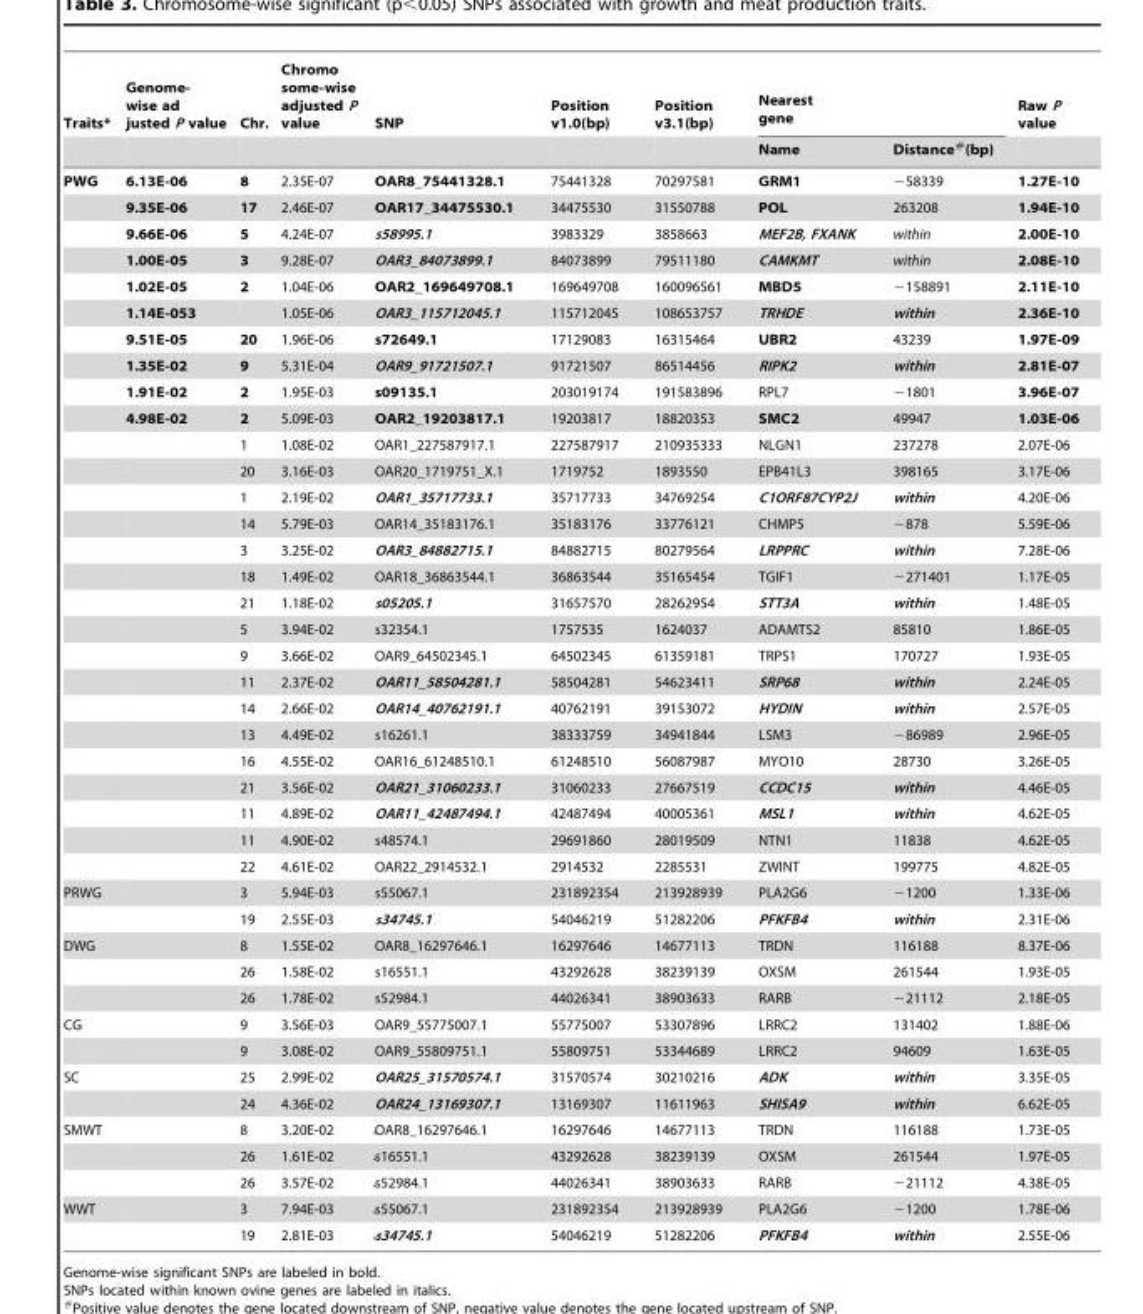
<table><thead><tr><td rowspan="2">Traits*</td><td rowspan="2">Genome- wise ad justed P value</td><td rowspan="2">Chr.</td><td rowspan="2">Chromo some-wise adjusted P value</td><td rowspan="2">SNP</td><td rowspan="2">Position v1.0(bp)</td><td rowspan="2">Position v3.1(bp)</td><td colspan="2">Nearest gene</td><td rowspan="2">Raw P value</td></tr><tr><td>Name</td><td>Distance#(bp)</td></tr></thead><tbody><tr><td rowspan="27">PWG</td><td>6.13E-06</td><td>8</td><td>2.35E-07</td><td>OAR8_75441328.1</td><td>75441328</td><td>70297581</td><td>GRM1</td><td>−58339</td><td>1.27E-10</td></tr><tr><td>9.35E-06</td><td>17</td><td>2.46E-07</td><td>OAR17_34475530.1</td><td>34475530</td><td>31550788</td><td>POL</td><td>263208</td><td>1.94E-10</td></tr><tr><td>9.66E-06</td><td>5</td><td>4.24E-07</td><td>s58995.1</td><td>3983329</td><td>3858663</td><td>MEF2B, FXANK</td><td>within</td><td>2.00E-10</td></tr><tr><td>1.00E-05</td><td>3</td><td>9.28E-07</td><td>OAR3_84073899.1</td><td>84073899</td><td>79511180</td><td>CAMKMT</td><td>within</td><td>2.08E-10</td></tr><tr><td>1.02E-05</td><td>2</td><td>1.04E-06</td><td>OAR2_169649708.1</td><td>169649708</td><td>160096561</td><td>MBD5</td><td>−158891</td><td>2.11E-10</td></tr><tr><td>1.14E-053</td><td></td><td>1.05E-06</td><td>OAR3_115712045.1</td><td>115712045</td><td>108653757</td><td>TRHDE</td><td>within</td><td>2.36E-10</td></tr><tr><td>9.51E-05</td><td>20</td><td>1.96E-06</td><td>s72649.1</td><td>17129083</td><td>16315464</td><td>UBR2</td><td>43239</td><td>1.97E-09</td></tr><tr><td>1.35E-02</td><td>9</td><td>5.31E-04</td><td>OAR9_91721507.1</td><td>91721507</td><td>86514456</td><td>RIPK2</td><td>within</td><td>2.81E-07</td></tr><tr><td>1.91E-02</td><td>2</td><td>1.95E-03</td><td>s09135.1</td><td>203019174</td><td>191583896</td><td>RPL7</td><td>−1801</td><td>3.96E-07</td></tr><tr><td>4.98E-02</td><td>2</td><td>5.09E-03</td><td>OAR2_19203817.1</td><td>19203817</td><td>18820353</td><td>SMC2</td><td>49947</td><td>1.03E-06</td></tr><tr><td></td><td>1</td><td>1.08E-02</td><td>OAR1_227587917.1</td><td>227587917</td><td>210935333</td><td>NLGN1</td><td>237278</td><td>2.07E-06</td></tr><tr><td></td><td>20</td><td>3.16E-03</td><td>OAR20_1719751_X.1</td><td>1719752</td><td>1893550</td><td>EPB41L3</td><td>398165</td><td>3.17E-06</td></tr><tr><td></td><td>1</td><td>2.19E-02</td><td>OAR1_35717733.1</td><td>35717733</td><td>34769254</td><td>C1ORF87CYP2J</td><td>within</td><td>4.20E-06</td></tr><tr><td></td><td>14</td><td>5.79E-03</td><td>OAR14_35183176.1</td><td>35183176</td><td>33776121</td><td>CHMP5</td><td>−878</td><td>5.59E-06</td></tr><tr><td></td><td>3</td><td>3.25E-02</td><td>OAR3_84882715.1</td><td>84882715</td><td>80279564</td><td>LRPPRC</td><td>within</td><td>7.28E-06</td></tr><tr><td></td><td>18</td><td>1.49E-02</td><td>OAR18_36863544.1</td><td>36863544</td><td>35165454</td><td>TGIF1</td><td>−271401</td><td>1.17E-05</td></tr><tr><td></td><td>21</td><td>1.18E-02</td><td>s05205.1</td><td>31657570</td><td>28262954</td><td>STT3A</td><td>within</td><td>1.48E-05</td></tr><tr><td></td><td>5</td><td>3.94E-02</td><td>s32354.1</td><td>1757535</td><td>1624037</td><td>ADAMTS2</td><td>85810</td><td>1.86E-05</td></tr><tr><td></td><td>9</td><td>3.66E-02</td><td>OAR9_64502345.1</td><td>64502345</td><td>61359181</td><td>TRPS1</td><td>170727</td><td>1.93E-05</td></tr><tr><td></td><td>11</td><td>2.37E-02</td><td>OAR11_58504281.1</td><td>58504281</td><td>54623411</td><td>SRP68</td><td>within</td><td>2.24E-05</td></tr><tr><td></td><td>14</td><td>2.66E-02</td><td>OAR14_40762191.1</td><td>40762191</td><td>39153072</td><td>HYDIN</td><td>within</td><td>2.57E-05</td></tr><tr><td></td><td>13</td><td>4.49E-02</td><td>s16261.1</td><td>38333759</td><td>34941844</td><td>LSM3</td><td>−86989</td><td>2.96E-05</td></tr><tr><td></td><td>16</td><td>4.55E-02</td><td>OAR16_61248510.1</td><td>61248510</td><td>56087987</td><td>MYO10</td><td>28730</td><td>3.26E-05</td></tr><tr><td></td><td>21</td><td>3.56E-02</td><td>OAR21_31060233.1</td><td>31060233</td><td>27667519</td><td>CCDC15</td><td>within</td><td>4.46E-05</td></tr><tr><td></td><td>11</td><td>4.89E-02</td><td>OAR11_42487494.1</td><td>42487494</td><td>40005361</td><td>MSL1</td><td>within</td><td>4.62E-05</td></tr><tr><td></td><td>11</td><td>4.90E-02</td><td>s48574.1</td><td>29691860</td><td>28019509</td><td>NTN1</td><td>11838</td><td>4.62E-05</td></tr><tr><td></td><td>22</td><td>4.61E-02</td><td>OAR22_2914532.1</td><td>2914532</td><td>2285531</td><td>ZWINT</td><td>199775</td><td>4.82E-05</td></tr><tr><td rowspan="2">PRWG</td><td></td><td>3</td><td>5.94E-03</td><td>s55067.1</td><td>231892354</td><td>213928939</td><td>PLA2G6</td><td>−1200</td><td>1.33E-06</td></tr><tr><td></td><td>19</td><td>2.55E-03</td><td>s34745.1</td><td>54046219</td><td>51282206</td><td>PFKFB4</td><td>within</td><td>2.31E-06</td></tr><tr><td rowspan="3">DWG</td><td></td><td>8</td><td>1.55E-02</td><td>OAR8_16297646.1</td><td>16297646</td><td>14677113</td><td>TRDN</td><td>116188</td><td>8.37E-06</td></tr><tr><td></td><td>26</td><td>1.58E-02</td><td>s16551.1</td><td>43292628</td><td>38239139</td><td>OXSM</td><td>261544</td><td>1.93E-05</td></tr><tr><td></td><td>26</td><td>1.78E-02</td><td>s52984.1</td><td>44026341</td><td>38903633</td><td>RARB</td><td>−21112</td><td>2.18E-05</td></tr><tr><td rowspan="2">CG</td><td></td><td>9</td><td>3.56E-03</td><td>OAR9_55775007.1</td><td>55775007</td><td>53307896</td><td>LRRC2</td><td>131402</td><td>1.88E-06</td></tr><tr><td></td><td>9</td><td>3.08E-02</td><td>OAR9_55809751.1</td><td>55809751</td><td>53344689</td><td>LRRC2</td><td>94609</td><td>1.63E-05</td></tr><tr><td rowspan="2">SC</td><td></td><td>25</td><td>2.99E-02</td><td>OAR25_31570574.1</td><td>31570574</td><td>30210216</td><td>ADK</td><td>within</td><td>3.35E-05</td></tr><tr><td></td><td>24</td><td>4.36E-02</td><td>OAR24_13169307.1</td><td>13169307</td><td>11611963</td><td>SHISA9</td><td>within</td><td>6.62E-05</td></tr><tr><td rowspan="3">SMWT</td><td></td><td>8</td><td>3.20E-02</td><td>ˆOAR8_16297646.1</td><td>16297646</td><td>14677113</td><td>TRDN</td><td>116188</td><td>1.73E-05</td></tr><tr><td></td><td>26</td><td>1.61E-02</td><td>ˆs16551.1</td><td>43292628</td><td>38239139</td><td>OXSM</td><td>261544</td><td>1.97E-05</td></tr><tr><td></td><td>26</td><td>3.57E-02</td><td>ˆs52984.1</td><td>44026341</td><td>38903633</td><td>RARB</td><td>−21112</td><td>4.38E-05</td></tr><tr><td rowspan="2">WWT</td><td></td><td>3</td><td>7.94E-03</td><td>ˆs55067.1</td><td>231892354</td><td>213928939</td><td>PLA2G6</td><td>−1200</td><td>1.78E-06</td></tr><tr><td></td><td>19</td><td>2.81E-03</td><td>ˆs34745.1</td><td>54046219</td><td>51282206</td><td>PFKFB4</td><td>within</td><td>2.55E-06</td></tr></tbody></table>